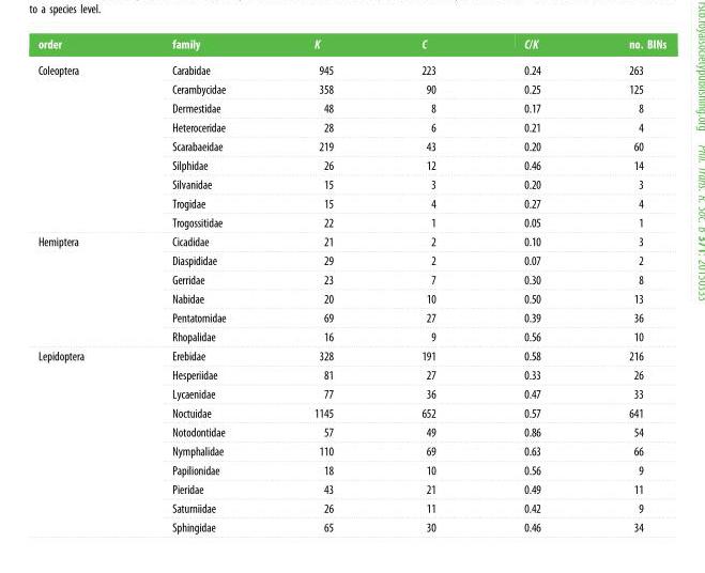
<table><thead><tr><td>order</td><td>family</td><td>K</td><td>C</td><td>C/K</td><td>no. BINs</td></tr></thead><tbody><tr><td rowspan="9">Coleoptera</td><td>Carabidae</td><td>945</td><td>223</td><td>0.24</td><td>263</td></tr><tr><td>Cerambycidae</td><td>358</td><td>90</td><td>0.25</td><td>125</td></tr><tr><td>Dermestidae</td><td>48</td><td>8</td><td>0.17</td><td>8</td></tr><tr><td>Heteroceridae</td><td>28</td><td>6</td><td>0.21</td><td>4</td></tr><tr><td>Scarabaeidae</td><td>219</td><td>43</td><td>0.20</td><td>60</td></tr><tr><td>Silphidae</td><td>26</td><td>12</td><td>0.46</td><td>14</td></tr><tr><td>Silvanidae</td><td>15</td><td>3</td><td>0.20</td><td>3</td></tr><tr><td>Trogidae</td><td>15</td><td>4</td><td>0.27</td><td>4</td></tr><tr><td>Trogossitidae</td><td>22</td><td>1</td><td>0.05</td><td>1</td></tr><tr><td rowspan="6">Hemiptera</td><td>Cicadidae</td><td>21</td><td>2</td><td>0.10</td><td>3</td></tr><tr><td>Diaspididae</td><td>29</td><td>2</td><td>0.07</td><td>2</td></tr><tr><td>Gerridae</td><td>23</td><td>7</td><td>0.30</td><td>8</td></tr><tr><td>Nabidae</td><td>20</td><td>10</td><td>0.50</td><td>13</td></tr><tr><td>Pentatomidae</td><td>69</td><td>27</td><td>0.39</td><td>36</td></tr><tr><td>Rhopalidae</td><td>16</td><td>9</td><td>0.56</td><td>10</td></tr><tr><td rowspan="10">Lepidoptera</td><td>Erebidae</td><td>328</td><td>191</td><td>0.58</td><td>216</td></tr><tr><td>Hesperiidae</td><td>81</td><td>27</td><td>0.33</td><td>26</td></tr><tr><td>Lycaenidae</td><td>77</td><td>36</td><td>0.47</td><td>33</td></tr><tr><td>Noctuidae</td><td>1145</td><td>652</td><td>0.57</td><td>641</td></tr><tr><td>Notodontidae</td><td>57</td><td>49</td><td>0.86</td><td>54</td></tr><tr><td>Nymphalidae</td><td>110</td><td>69</td><td>0.63</td><td>66</td></tr><tr><td>Papilionidae</td><td>18</td><td>10</td><td>0.56</td><td>9</td></tr><tr><td>Pieridae</td><td>43</td><td>21</td><td>0.49</td><td>11</td></tr><tr><td>Saturniidae</td><td>26</td><td>11</td><td>0.42</td><td>9</td></tr><tr><td>Sphingidae</td><td>65</td><td>30</td><td>0.46</td><td>34</td></tr></tbody></table>